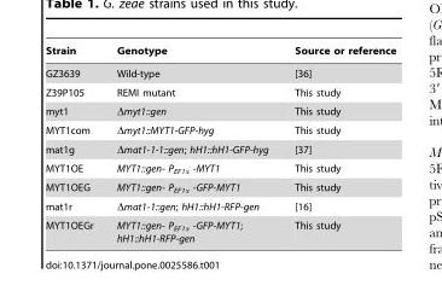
<table><thead><tr><td>Strain</td><td>Genotype</td><td>Source or reference</td></tr></thead><tbody><tr><td>GZ3639</td><td>Wild-type</td><td>[36]</td></tr><tr><td>Z39P105</td><td>REMI mutant</td><td>This study</td></tr><tr><td>myt1</td><td>Δmyt1::gen</td><td>This study</td></tr><tr><td>MYT1com</td><td>Δmyt1::MYT1-GFP-hyg</td><td>This study</td></tr><tr><td>mat1g</td><td>Δmat1-1-1::gen; hH1::hH1-GFP-hyg</td><td>[37]</td></tr><tr><td>MYT1OE</td><td>MYT1::gen- P<sub>EF1α</sub> -MYT1</td><td>This study</td></tr><tr><td>MYT1OEG</td><td>MYT1::gen- P<sub>EF1α</sub> -GFP-MYT1</td><td>This study</td></tr><tr><td>mat1r</td><td>Δmat1-1::gen; hH1::hH1-RFP-gen</td><td>[16]</td></tr><tr><td>MYT1OEGr</td><td>MYT1::gen- P<sub>EF1α</sub> -GFP-MYT1; hH1::hH1-RFP-gen</td><td>This study</td></tr></tbody></table>